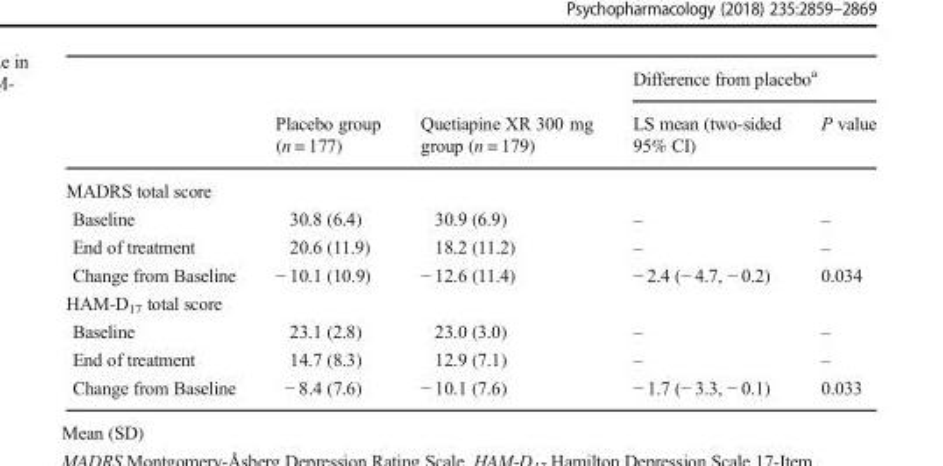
<table><thead><tr><td rowspan="2"></td><td rowspan="2">Placebo group (n = 177)</td><td rowspan="2">Quetiapine XR 300 mg group (n = 179)</td><td colspan="2">Difference from placebo<sup>a</sup></td></tr><tr><td>LS mean (two-sided 95% CI)</td><td>P value</td></tr></thead><tbody><tr><td colspan="5">MADRS total score</td></tr><tr><td>Baseline</td><td>30.8 (6.4)</td><td>30.9 (6.9)</td><td>–</td><td>–</td></tr><tr><td>End of treatment</td><td>20.6 (11.9)</td><td>18.2 (11.2)</td><td>–</td><td>–</td></tr><tr><td>Change from Baseline</td><td>− 10.1 (10.9)</td><td>− 12.6 (11.4)</td><td>− 2.4 (− 4.7, − 0.2)</td><td>0.034</td></tr><tr><td colspan="5">HAM-D<sub>17</sub> total score</td></tr><tr><td>Baseline</td><td>23.1 (2.8)</td><td>23.0 (3.0)</td><td>–</td><td>–</td></tr><tr><td>End of treatment</td><td>14.7 (8.3)</td><td>12.9 (7.1)</td><td>–</td><td>–</td></tr><tr><td>Change from Baseline</td><td>− 8.4 (7.6)</td><td>− 10.1 (7.6)</td><td>− 1.7 (− 3.3, − 0.1)</td><td>0.033</td></tr></tbody></table>